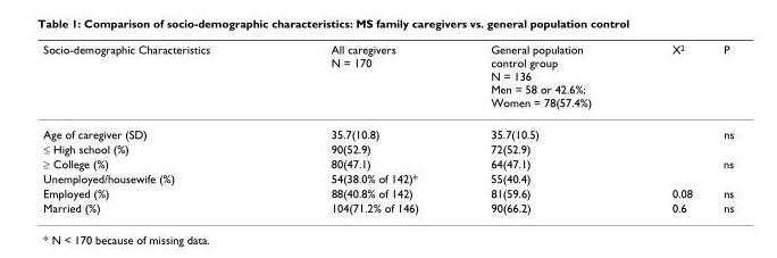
<table><thead><tr><td>Socio-demographic Characteristics</td><td>All caregivers N = 170</td><td>General population control group N = 136 Men = 58 or 42.6%; Women = 78(57.4%)</td><td>X<sup>2</sup></td><td>P</td></tr></thead><tbody><tr><td>Age of caregiver (SD)</td><td>35.7(10.8)</td><td>35.7(10.5)</td><td></td><td>ns</td></tr><tr><td>≤ High school (%)</td><td>90(52.9)</td><td>72(52.9)</td><td></td><td></td></tr><tr><td>≥ College (%)</td><td>80(47.1)</td><td>64(47.1)</td><td></td><td>ns</td></tr><tr><td>Unemployed/housewife (%)</td><td>54(38.0% of 142)*</td><td>55(40.4)</td><td></td><td></td></tr><tr><td>Employed (%)</td><td>88(40.8% of 142)</td><td>81(59.6)</td><td>0.08</td><td>ns</td></tr><tr><td>Married (%)</td><td>104(71.2% of 146)</td><td>90(66.2)</td><td>0.6</td><td>ns</td></tr></tbody></table>